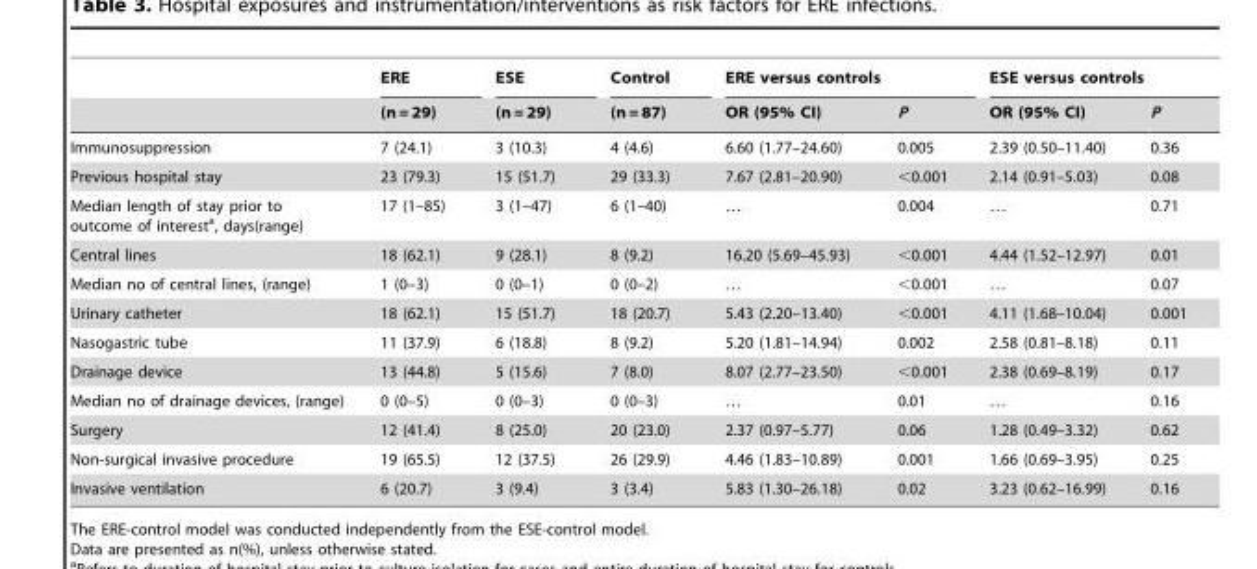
<table><thead><tr><td rowspan="2"></td><td rowspan="2">ERE (n = 29)</td><td rowspan="2">ESE (n = 29)</td><td rowspan="2">Control (n = 87)</td><td colspan="2">ERE versus controls</td><td colspan="2">ESE versus controls</td></tr><tr><td>OR (95% CI)</td><td>P</td><td>OR (95% CI)</td><td>P</td></tr></thead><tbody><tr><td>Immunosuppression</td><td>7 (24.1)</td><td>3 (10.3)</td><td>4 (4.6)</td><td>6.60 (1.77–24.60)</td><td>0.005</td><td>2.39 (0.50–11.40)</td><td>0.36</td></tr><tr><td>Previous hospital stay</td><td>23 (79.3)</td><td>15 (51.7)</td><td>29 (33.3)</td><td>7.67 (2.81–20.90)</td><td>&lt;0.001</td><td>2.14 (0.91–5.03)</td><td>0.08</td></tr><tr><td>Median length of stay prior to outcome of interest<sup>a</sup>, days(range)</td><td>17 (1–85)</td><td>3 (1–47)</td><td>6 (1–40)</td><td>…</td><td>0.004</td><td>…</td><td>0.71</td></tr><tr><td>Central lines</td><td>18 (62.1)</td><td>9 (28.1)</td><td>8 (9.2)</td><td>16.20 (5.69–45.93)</td><td>&lt;0.001</td><td>4.44 (1.52–12.97)</td><td>0.01</td></tr><tr><td>Median no of central lines, (range)</td><td>1 (0–3)</td><td>0 (0–1)</td><td>0 (0–2)</td><td>…</td><td>&lt;0.001</td><td>…</td><td>0.07</td></tr><tr><td>Urinary catheter</td><td>18 (62.1)</td><td>15 (51.7)</td><td>18 (20.7)</td><td>5.43 (2.20–13.40)</td><td>&lt;0.001</td><td>4.11 (1.68–10.04)</td><td>0.001</td></tr><tr><td>Nasogastric tube</td><td>11 (37.9)</td><td>6 (18.8)</td><td>8 (9.2)</td><td>5.20 (1.81–14.94)</td><td>0.002</td><td>2.58 (0.81–8.18)</td><td>0.11</td></tr><tr><td>Drainage device</td><td>13 (44.8)</td><td>5 (15.6)</td><td>7 (8.0)</td><td>8.07 (2.77–23.50)</td><td>&lt;0.001</td><td>2.38 (0.69–8.19)</td><td>0.17</td></tr><tr><td>Median no of drainage devices, (range)</td><td>0 (0–5)</td><td>0 (0–3)</td><td>0 (0–3)</td><td>…</td><td>0.01</td><td>…</td><td>0.16</td></tr><tr><td>Surgery</td><td>12 (41.4)</td><td>8 (25.0)</td><td>20 (23.0)</td><td>2.37 (0.97–5.77)</td><td>0.06</td><td>1.28 (0.49–3.32)</td><td>0.62</td></tr><tr><td>Non-surgical invasive procedure</td><td>19 (65.5)</td><td>12 (37.5)</td><td>26 (29.9)</td><td>4.46 (1.83–10.89)</td><td>0.001</td><td>1.66 (0.69–3.95)</td><td>0.25</td></tr><tr><td>Invasive ventilation</td><td>6 (20.7)</td><td>3 (9.4)</td><td>3 (3.4)</td><td>5.83 (1.30–26.18)</td><td>0.02</td><td>3.23 (0.62–16.99)</td><td>0.16</td></tr></tbody></table>